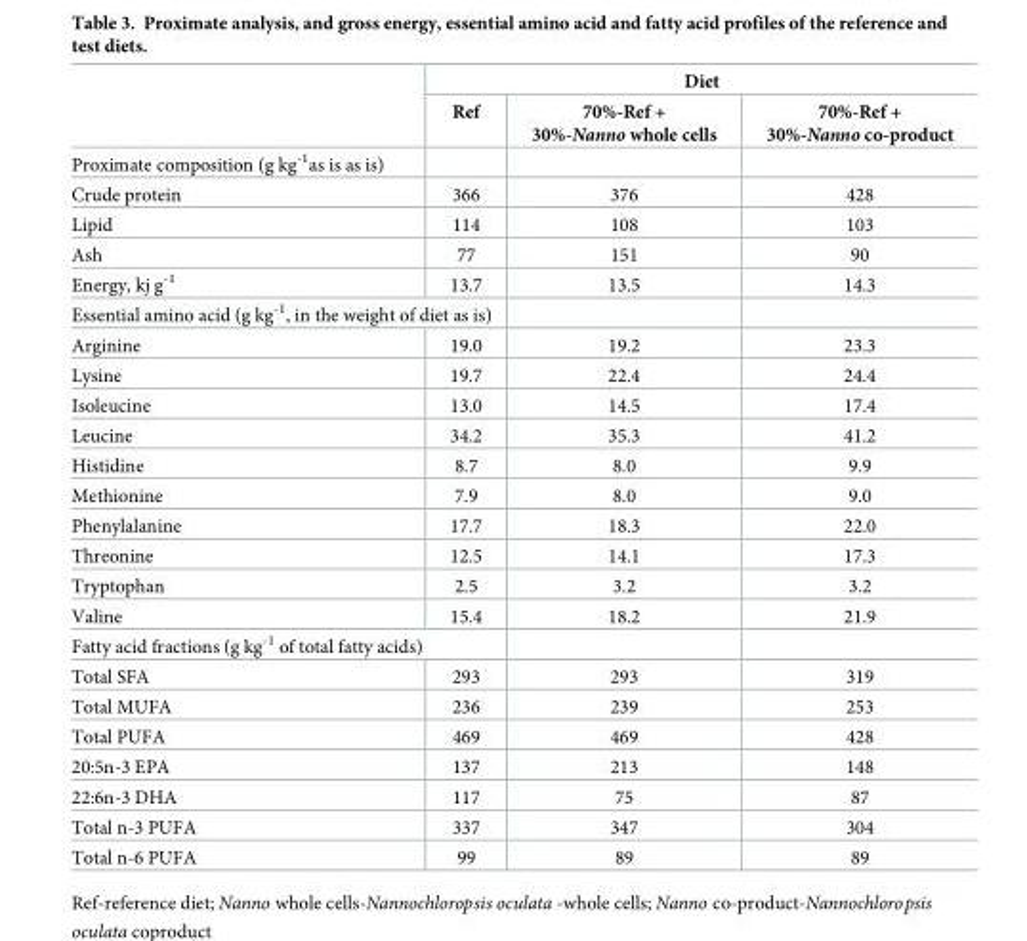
<table><thead><tr><td rowspan="2"></td><td colspan="3">Diet</td></tr><tr><td>Ref</td><td>70%-Ref + 30%-Nanno whole cells</td><td>70%-Ref + 30%-Nanno co-product</td></tr></thead><tbody><tr><td colspan="4">Proximate composition (g kg<sup>-1</sup>as is as is)</td></tr><tr><td>Crude protein</td><td>366</td><td>376</td><td>428</td></tr><tr><td>Lipid</td><td>114</td><td>108</td><td>103</td></tr><tr><td>Ash</td><td>77</td><td>151</td><td>90</td></tr><tr><td>Energy, kj g<sup>-1</sup></td><td>13.7</td><td>13.5</td><td>14.3</td></tr><tr><td colspan="4">Essential amino acid (g kg<sup>-1</sup>, in the weight of diet as is)</td></tr><tr><td>Arginine</td><td>19.0</td><td>19.2</td><td>23.3</td></tr><tr><td>Lysine</td><td>19.7</td><td>22.4</td><td>24.4</td></tr><tr><td>Isoleucine</td><td>13.0</td><td>14.5</td><td>17.4</td></tr><tr><td>Leucine</td><td>34.2</td><td>35.3</td><td>41.2</td></tr><tr><td>Histidine</td><td>8.7</td><td>8.0</td><td>9.9</td></tr><tr><td>Methionine</td><td>7.9</td><td>8.0</td><td>9.0</td></tr><tr><td>Phenylalanine</td><td>17.7</td><td>18.3</td><td>22.0</td></tr><tr><td>Threonine</td><td>12.5</td><td>14.1</td><td>17.3</td></tr><tr><td>Tryptophan</td><td>2.5</td><td>3.2</td><td>3.2</td></tr><tr><td>Valine</td><td>15.4</td><td>18.2</td><td>21.9</td></tr><tr><td colspan="4">Fatty acid fractions (g kg<sup>-1</sup> of total fatty acids)</td></tr><tr><td>Total SFA</td><td>293</td><td>293</td><td>319</td></tr><tr><td>Total MUFA</td><td>236</td><td>239</td><td>253</td></tr><tr><td>Total PUFA</td><td>469</td><td>469</td><td>428</td></tr><tr><td>20:5n-3 EPA</td><td>137</td><td>213</td><td>148</td></tr><tr><td>22:6n-3 DHA</td><td>117</td><td>75</td><td>87</td></tr><tr><td>Total n-3 PUFA</td><td>337</td><td>347</td><td>304</td></tr><tr><td>Total n-6 PUFA</td><td>99</td><td>89</td><td>89</td></tr></tbody></table>